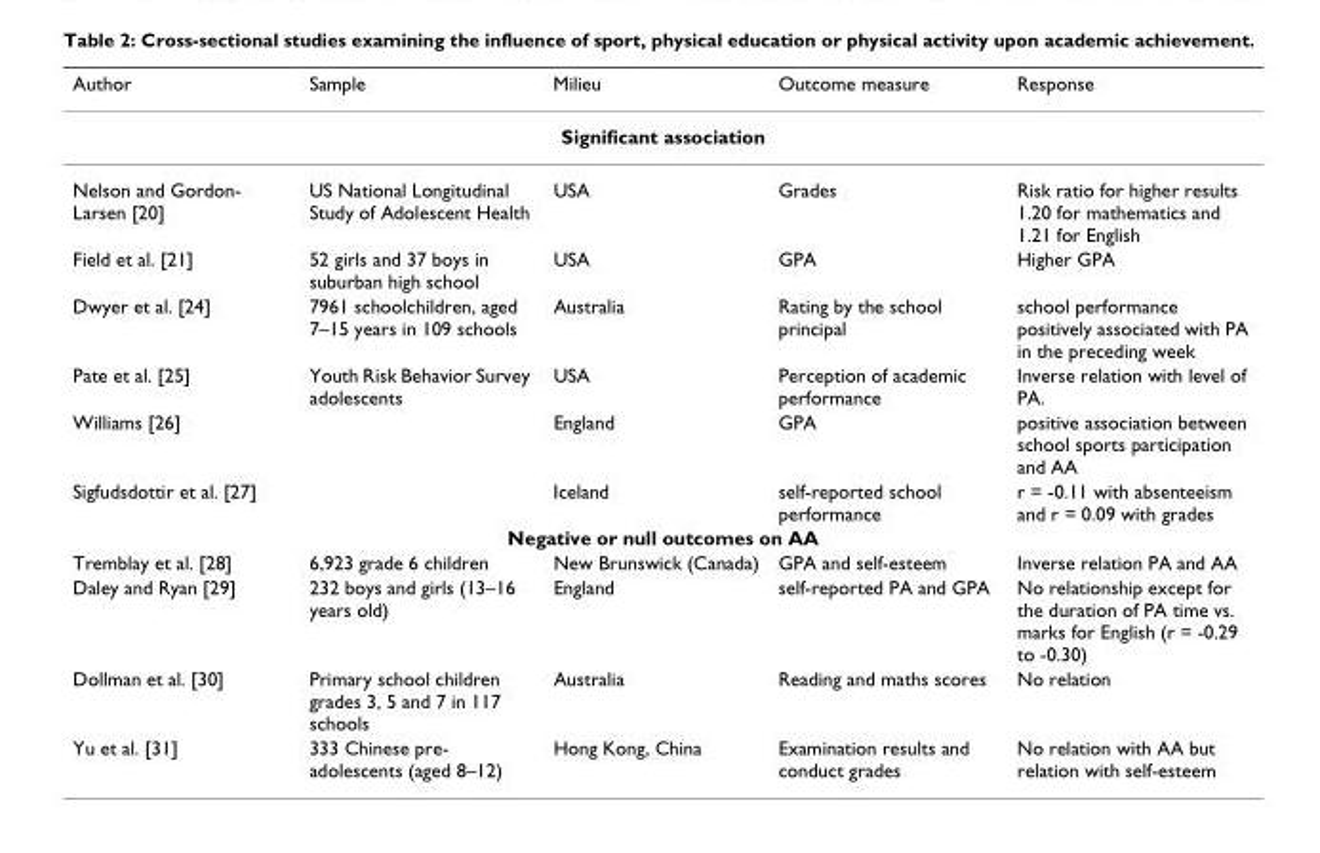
<table><thead><tr><td>Author</td><td>Sample</td><td>Milieu</td><td>Outcome measure</td><td>Response</td></tr></thead><tbody><tr><td colspan="5">Significant association</td></tr><tr><td>Nelson and Gordon- Larsen [20]</td><td>US National Longitudinal Study of Adolescent Health</td><td>USA</td><td>Grades</td><td>Risk ratio for higher results 1.20 for mathematics and 1.21 for English</td></tr><tr><td>Field et al. [21]</td><td>52 girls and 37 boys in suburban high school</td><td>USA</td><td>GPA</td><td>Higher GPA</td></tr><tr><td>Dwyer et al. [24]</td><td>7961 schoolchildren, aged 7–15 years in 109 schools</td><td>Australia</td><td>Rating by the school principal</td><td>school performance positively associated with PA in the preceding week</td></tr><tr><td>Pate et al. [25]</td><td>Youth Risk Behavior Survey adolescents</td><td>USA</td><td>Perception of academic performance</td><td>Inverse relation with level of PA.</td></tr><tr><td>Williams [26]</td><td></td><td>England</td><td>GPA</td><td>positive association between school sports participation and AA</td></tr><tr><td>Sigfudsdottir et al. [27]</td><td></td><td>Iceland</td><td>self-reported school performance</td><td>r = -0.11 with absenteeism and r = 0.09 with grades</td></tr><tr><td colspan="5">Negative or null outcomes on AA</td></tr><tr><td>Tremblay et al. [28]</td><td>6,923 grade 6 children</td><td>New Brunswick (Canada)</td><td>GPA and self-esteem</td><td>Inverse relation PA and AA</td></tr><tr><td>Daley and Ryan [29]</td><td>232 boys and girls (13–16 years old)</td><td>England</td><td>self-reported PA and GPA</td><td>No relationship except for the duration of PA time vs. marks for English (r = -0.29 to -0.30)</td></tr><tr><td>Dollman et al. [30]</td><td>Primary school children grades 3, 5 and 7 in 117 schools</td><td>Australia</td><td>Reading and maths scores</td><td>No relation</td></tr><tr><td>Yu et al. [31]</td><td>333 Chinese pre- adolescents (aged 8–12)</td><td>Hong Kong, China</td><td>Examination results and conduct grades</td><td>No relation with AA but relation with self-esteem</td></tr></tbody></table>